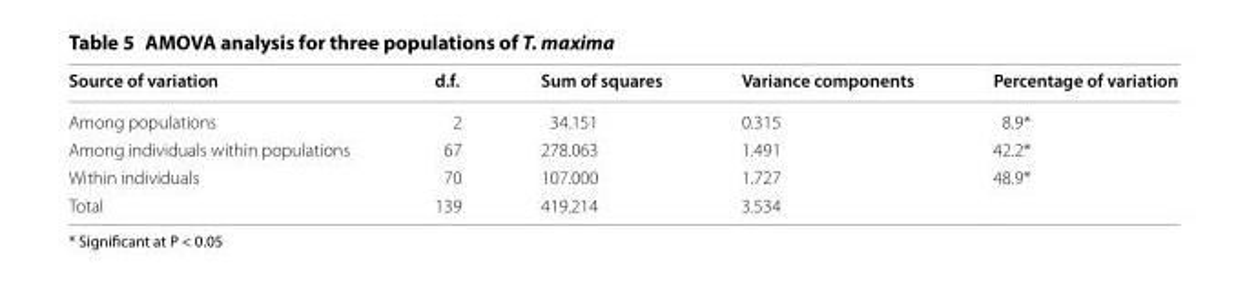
<table><thead><tr><td>Source of variation</td><td>d.f.</td><td>Sum of squares</td><td>Variance components</td><td>Percentage of variation</td></tr></thead><tbody><tr><td>Among populations</td><td>2</td><td>34.151</td><td>0.315</td><td>8.9*</td></tr><tr><td>Among individuals within populations</td><td>67</td><td>278.063</td><td>1.491</td><td>42.2*</td></tr><tr><td>Within individuals</td><td>70</td><td>107.000</td><td>1.727</td><td>48.9*</td></tr><tr><td>Total</td><td>139</td><td>419.214</td><td>3.534</td><td></td></tr></tbody></table>